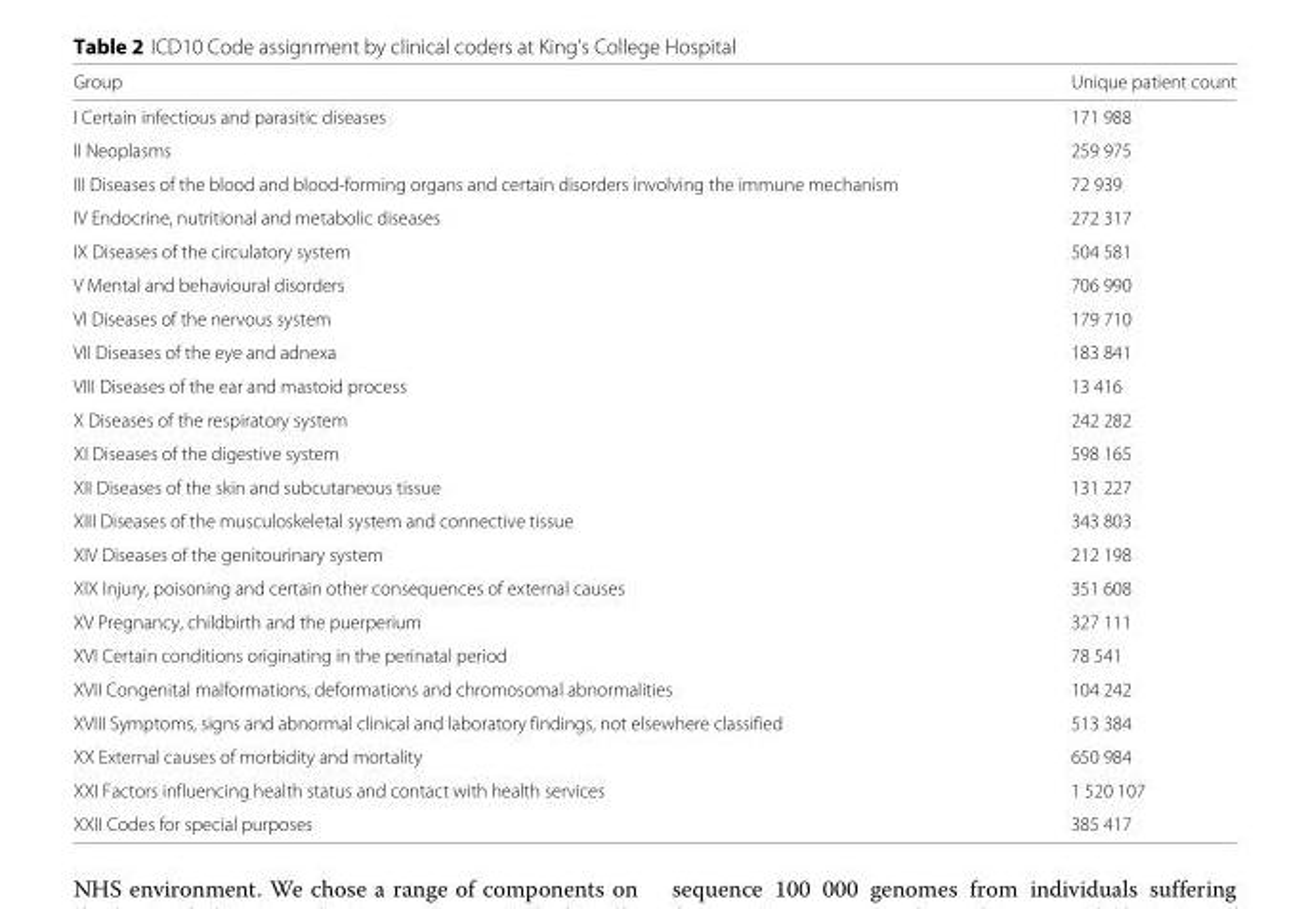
<table><thead><tr><td>Group</td><td>Unique patient count</td></tr></thead><tbody><tr><td>I Certain infectious and parasitic diseases</td><td>171 988</td></tr><tr><td>II Neoplasms</td><td>259 975</td></tr><tr><td>III Diseases of the blood and blood-forming organs and certain disorders involving the immune mechanism</td><td>72 939</td></tr><tr><td>IV Endocrine, nutritional and metabolic diseases</td><td>272 317</td></tr><tr><td>IX Diseases of the circulatory system</td><td>504 581</td></tr><tr><td>V Mental and behavioural disorders</td><td>706 990</td></tr><tr><td>VI Diseases of the nervous system</td><td>179 710</td></tr><tr><td>VII Diseases of the eye and adnexa</td><td>183 841</td></tr><tr><td>VIII Diseases of the ear and mastoid process</td><td>13 416</td></tr><tr><td>X Diseases of the respiratory system</td><td>242 282</td></tr><tr><td>XI Diseases of the digestive system</td><td>598 165</td></tr><tr><td>XII Diseases of the skin and subcutaneous tissue</td><td>131 227</td></tr><tr><td>XIII Diseases of the musculoskeletal system and connective tissue</td><td>343 803</td></tr><tr><td>XIV Diseases of the genitourinary system</td><td>212 198</td></tr><tr><td>XIX Injury, poisoning and certain other consequences of external causes</td><td>351 608</td></tr><tr><td>XV Pregnancy, childbirth and the puerperium</td><td>327 111</td></tr><tr><td>XVI Certain conditions originating in the perinatal period</td><td>78 541</td></tr><tr><td>XVII Congenital malformations, deformations and chromosomal abnormalities</td><td>104 242</td></tr><tr><td>XVIII Symptoms, signs and abnormal clinical and laboratory findings, not elsewhere classified</td><td>513 384</td></tr><tr><td>XX External causes of morbidity and mortality</td><td>650 984</td></tr><tr><td>XXI Factors influencing health status and contact with health services</td><td>1 520 107</td></tr><tr><td>XXII Codes for special purposes</td><td>385 417</td></tr></tbody></table>